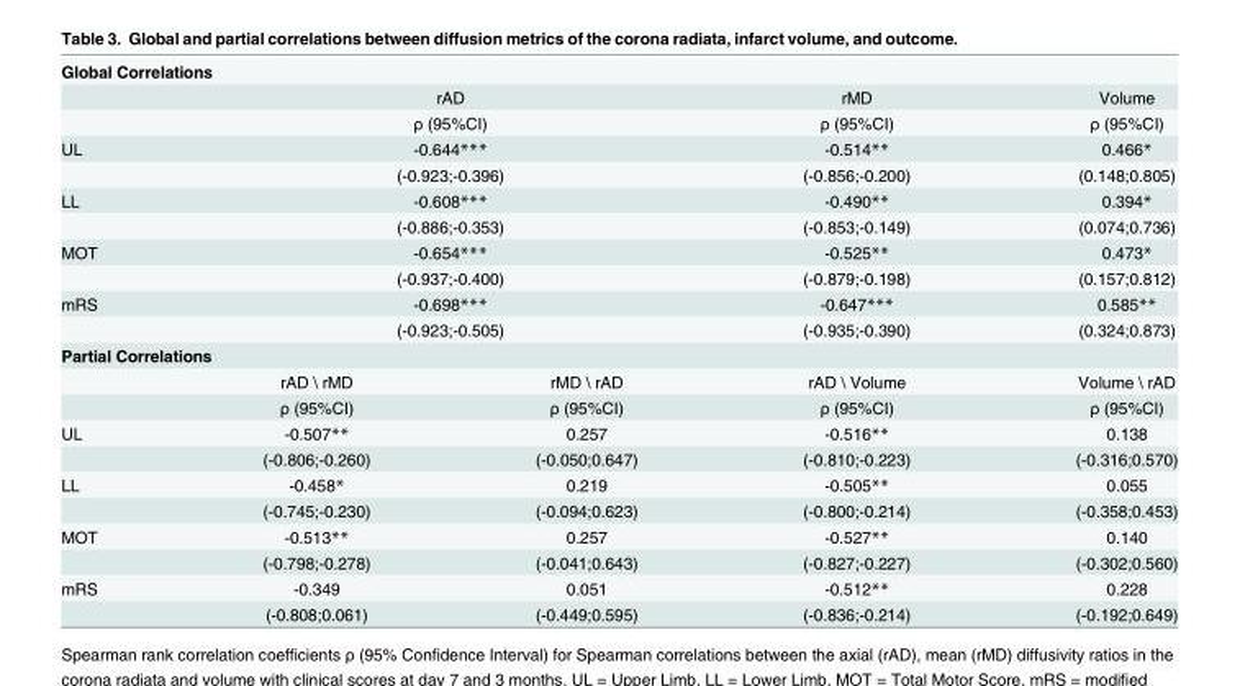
<table><tbody><tr><td colspan="5">Global Correlations</td></tr><tr><td></td><td colspan="2">rAD</td><td>rMD</td><td>Volume</td></tr><tr><td></td><td colspan="2">ρ (95%CI)</td><td>ρ (95%CI)</td><td>ρ (95%CI)</td></tr><tr><td rowspan="2">UL</td><td colspan="2">-0.644***</td><td>-0.514**</td><td>0.466*</td></tr><tr><td colspan="2">(-0.923;-0.396)</td><td>(-0.856;-0.200)</td><td>(0.148;0.805)</td></tr><tr><td rowspan="2">LL</td><td colspan="2">-0.608***</td><td>-0.490**</td><td>0.394*</td></tr><tr><td colspan="2">(-0.886;-0.353)</td><td>(-0.853;-0.149)</td><td>(0.074;0.736)</td></tr><tr><td rowspan="2">MOT</td><td colspan="2">-0.654***</td><td>-0.525**</td><td>0.473*</td></tr><tr><td colspan="2">(-0.937;-0.400)</td><td>(-0.879;-0.198)</td><td>(0.157;0.812)</td></tr><tr><td rowspan="2">mRS</td><td colspan="2">-0.698***</td><td>-0.647***</td><td>0.585**</td></tr><tr><td colspan="2">(-0.923;-0.505)</td><td>(-0.935;-0.390)</td><td>(0.324;0.873)</td></tr><tr><td colspan="5">Partial Correlations</td></tr><tr><td></td><td>rAD \ rMD</td><td>rMD \ rAD</td><td>rAD \ Volume</td><td>Volume \ rAD</td></tr><tr><td></td><td>ρ (95%CI)</td><td>ρ (95%CI)</td><td>ρ (95%CI)</td><td>ρ (95%CI)</td></tr><tr><td rowspan="2">UL</td><td>-0.507**</td><td>0.257</td><td>-0.516**</td><td>0.138</td></tr><tr><td>(-0.806;-0.260)</td><td>(-0.050;0.647)</td><td>(-0.810;-0.223)</td><td>(-0.316;0.570)</td></tr><tr><td rowspan="2">LL</td><td>-0.458*</td><td>0.219</td><td>-0.505**</td><td>0.055</td></tr><tr><td>(-0.745;-0.230)</td><td>(-0.094;0.623)</td><td>(-0.800;-0.214)</td><td>(-0.358;0.453)</td></tr><tr><td rowspan="2">MOT</td><td>-0.513**</td><td>0.257</td><td>-0.527**</td><td>0.140</td></tr><tr><td>(-0.798;-0.278)</td><td>(-0.041;0.643)</td><td>(-0.827;-0.227)</td><td>(-0.302;0.560)</td></tr><tr><td rowspan="2">mRS</td><td>-0.349</td><td>0.051</td><td>-0.512**</td><td>0.228</td></tr><tr><td>(-0.808;0.061)</td><td>(-0.449;0.595)</td><td>(-0.836;-0.214)</td><td>(-0.192;0.649)</td></tr></tbody></table>